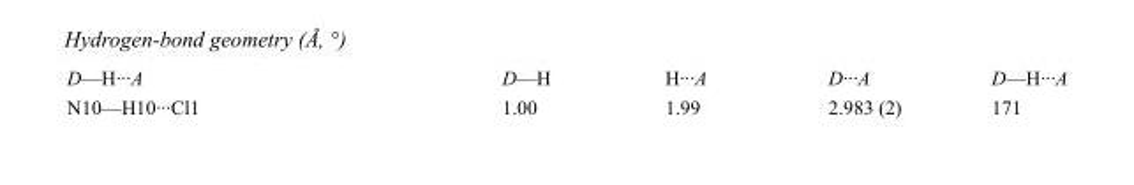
<table><tbody><tr><td>D—H···A</td><td>D—H</td><td>H···A</td><td>D···A</td><td>D—H···A</td></tr><tr><td>N10—H10···Cl1</td><td>1.00</td><td>1.99</td><td>2.983 (2)</td><td>171</td></tr></tbody></table>